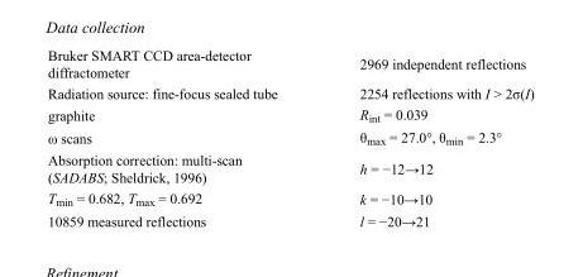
<table><tbody><tr><td>Bruker SMART CCD area-detector diffractometer</td><td>2969 independent reflections</td></tr><tr><td>Radiation source: fine-focus sealed tube</td><td>2254 reflections with I &gt; 2σ(I)</td></tr><tr><td>graphite</td><td>R<sub>int</sub> = 0.039</td></tr><tr><td>ω scans</td><td>θ<sub>max</sub> = 27.0°, θ<sub>min</sub> = 2.3°</td></tr><tr><td>Absorption correction: multi-scan (SADABS; Sheldrick, 1996)</td><td>h = −12→12</td></tr><tr><td>T<sub>min</sub> = 0.682, T<sub>max</sub> = 0.692</td><td>k = −10→10</td></tr><tr><td>10859 measured reflections</td><td>l = −20→21</td></tr></tbody></table>